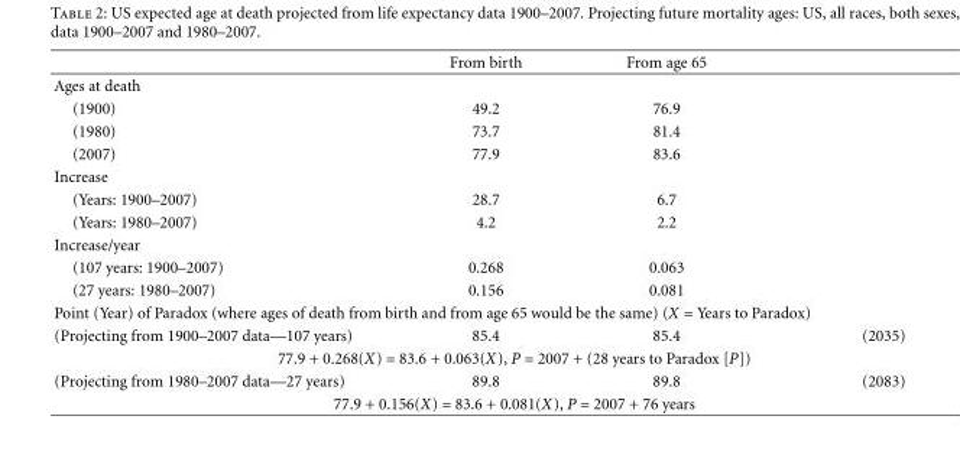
<table><thead><tr><td></td><td>From birth</td><td>From age 65</td><td></td></tr></thead><tbody><tr><td colspan="4">Ages at death</td></tr><tr><td>(1900)</td><td>49.2</td><td>76.9</td><td></td></tr><tr><td>(1980)</td><td>73.7</td><td>81.4</td><td></td></tr><tr><td>(2007)</td><td>77.9</td><td>83.6</td><td></td></tr><tr><td colspan="4">Increase</td></tr><tr><td>(Years: 1900–2007)</td><td>28.7</td><td>6.7</td><td></td></tr><tr><td>(Years: 1980–2007)</td><td>4.2</td><td>2.2</td><td></td></tr><tr><td colspan="4">Increase/year</td></tr><tr><td>(107 years: 1900–2007)</td><td>0.268</td><td>0.063</td><td></td></tr><tr><td>(27 years: 1980–2007)</td><td>0.156</td><td>0.081</td><td></td></tr><tr><td colspan="4">Point (Year) of Paradox (where ages of death from birth and from age 65 would be the same) (X = Years to Paradox)</td></tr><tr><td>(Projecting from 1900–2007 data—107 years)</td><td>85.4</td><td>85.4</td><td>(2035)</td></tr><tr><td colspan="4">77.9 + 0.268(X) = 83.6 + 0.063(X), P = 2007 + (28 years to Paradox [P])</td></tr><tr><td>(Projecting from 1980–2007 data—27 years)</td><td>89.8</td><td>89.8</td><td>(2083)</td></tr><tr><td colspan="4">77.9 + 0.156(X) = 83.6 + 0.081(X), P = 2007 + 76 years</td></tr></tbody></table>